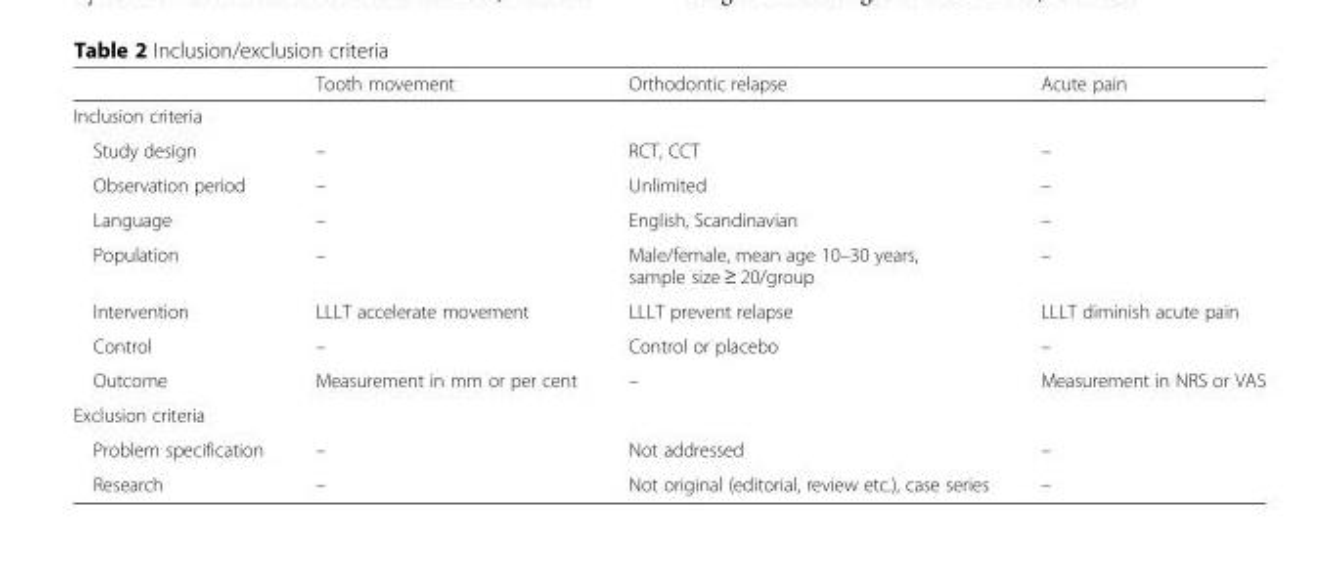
<table><thead><tr><td></td><td>Tooth movement</td><td>Orthodontic relapse</td><td>Acute pain</td></tr></thead><tbody><tr><td colspan="4">Inclusion criteria</td></tr><tr><td>Study design</td><td>–</td><td>RCT, CCT</td><td>–</td></tr><tr><td>Observation period</td><td>–</td><td>Unlimited</td><td>–</td></tr><tr><td>Language</td><td>–</td><td>English, Scandinavian</td><td>–</td></tr><tr><td>Population</td><td>–</td><td>Male/female, mean age 10–30 years, sample size ≥ 20/group</td><td>–</td></tr><tr><td>Intervention</td><td>LLLT accelerate movement</td><td>LLLT prevent relapse</td><td>LLLT diminish acute pain</td></tr><tr><td>Control</td><td>–</td><td>Control or placebo</td><td>–</td></tr><tr><td>Outcome</td><td>Measurement in mm or per cent</td><td>–</td><td>Measurement in NRS or VAS</td></tr><tr><td colspan="4">Exclusion criteria</td></tr><tr><td>Problem specification</td><td>–</td><td>Not addressed</td><td>–</td></tr><tr><td>Research</td><td>–</td><td>Not original (editorial, review etc.), case series</td><td>–</td></tr></tbody></table>